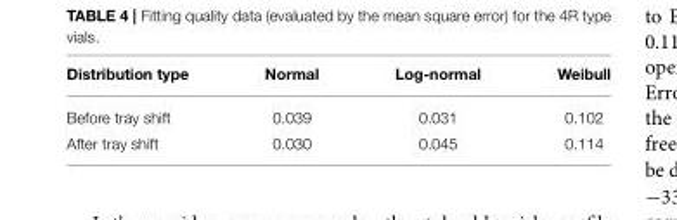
<table><thead><tr><td>Distribution type</td><td>Normal</td><td>Log-normal</td><td>Weibull</td></tr></thead><tbody><tr><td>Before tray shift</td><td>0.039</td><td>0.031</td><td>0.102</td></tr><tr><td>After tray shift</td><td>0.030</td><td>0.045</td><td>0.114</td></tr></tbody></table>